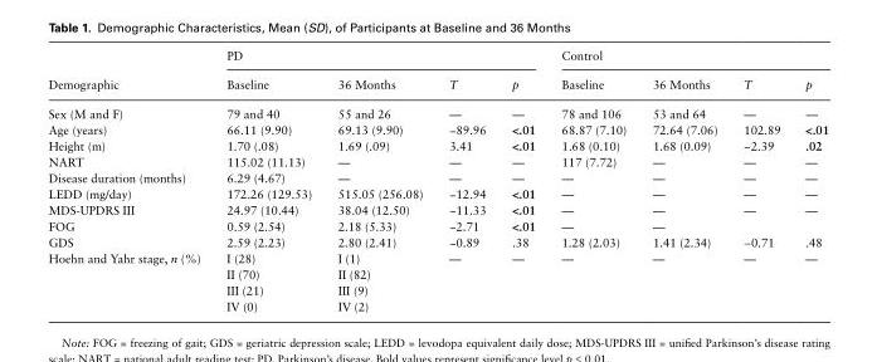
<table><thead><tr><td rowspan="2">Demographic</td><td colspan="4">PD</td><td colspan="4">Control</td></tr><tr><td>Baseline</td><td>36 Months</td><td>T</td><td>p</td><td>Baseline</td><td>36 Months</td><td>T</td><td>p</td></tr></thead><tbody><tr><td>Sex (M and F)</td><td>79 and 40</td><td>55 and 26</td><td>—</td><td>—</td><td>78 and 106</td><td>53 and 64</td><td>—</td><td>—</td></tr><tr><td>Age (years)</td><td>66.11 (9.90)</td><td>69.13 (9.90)</td><td>−89.96</td><td>&lt;.01</td><td>68.87 (7.10)</td><td>72.64 (7.06)</td><td>102.89</td><td>&lt;.01</td></tr><tr><td>Height (m)</td><td>1.70 (.08)</td><td>1.69 (.09)</td><td>3.41</td><td>&lt;.01</td><td>1.68 (0.10)</td><td>1.68 (0.09)</td><td>−2.39</td><td>.02</td></tr><tr><td>NART</td><td>115.02 (11.13)</td><td>—</td><td>—</td><td>—</td><td>117 (7.72)</td><td>—</td><td>—</td><td>—</td></tr><tr><td>Disease duration (months)</td><td>6.29 (4.67)</td><td>—</td><td>—</td><td>—</td><td>—</td><td>—</td><td>—</td><td>—</td></tr><tr><td>LEDD (mg/day)</td><td>172.26 (129.53)</td><td>515.05 (256.08)</td><td>−12.94</td><td>&lt;.01</td><td>—</td><td>—</td><td>—</td><td>—</td></tr><tr><td>MDS-UPDRS III</td><td>24.97 (10.44)</td><td>38.04 (12.50)</td><td>−11.33</td><td>&lt;.01</td><td>—</td><td>—</td><td>—</td><td>—</td></tr><tr><td>FOG</td><td>0.59 (2.54)</td><td>2.18 (5.33)</td><td>−2.71</td><td>&lt;.01</td><td>—</td><td>—</td><td></td><td></td></tr><tr><td>GDS</td><td>2.59 (2.23)</td><td>2.80 (2.41)</td><td>−0.89</td><td>.38</td><td>1.28 (2.03)</td><td>1.41 (2.34)</td><td>−0.71</td><td>.48</td></tr><tr><td rowspan="4">Hoehn and Yahr stage, n (%)</td><td>I (28)</td><td>I (1)</td><td>—</td><td>—</td><td>—</td><td>—</td><td>—</td><td>—</td></tr><tr><td>II (70)</td><td>II (82)</td><td></td><td></td><td></td><td></td><td></td><td></td></tr><tr><td>III (21)</td><td>III (9)</td><td></td><td></td><td></td><td></td><td></td><td></td></tr><tr><td>IV (0)</td><td>IV (2)</td><td></td><td></td><td></td><td></td><td></td><td></td></tr></tbody></table>